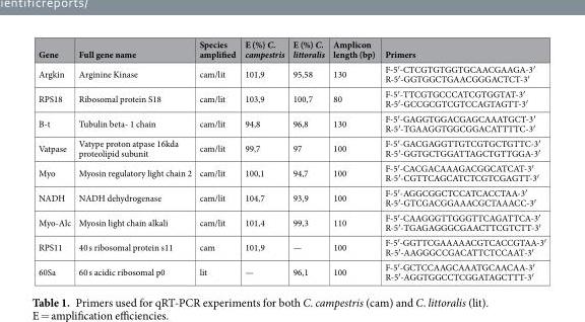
<table><thead><tr><td>Gene</td><td>Full gene name</td><td>Species amplified</td><td>E (%) C. campestris</td><td>E (%) C. littoralis</td><td>Amplicon length (bp)</td><td>Primers</td></tr></thead><tbody><tr><td>Argkin</td><td>Arginine Kinase</td><td>cam/lit</td><td>101,9</td><td>95,58</td><td>130</td><td>F-5′-CTCGTGTGGTGCAACGAAGA-3′ R-5′-GGTGGCTGAACGGGACTCT-3′</td></tr><tr><td>RPS18</td><td>Ribosomal protein S18</td><td>cam/lit</td><td>103,9</td><td>100,7</td><td>80</td><td>F-5′-TTCGTGCCCATCGTGGTAT-3′ R-5′-GCCGCGTCGTCCAGTAGTT-3′</td></tr><tr><td>B-t</td><td>Tubulin beta- 1 chain</td><td>cam/lit</td><td>94,8</td><td>96,8</td><td>130</td><td>F-5′-GAGGTGGACGAGCAAATGCT-3′ R-5′-TGAAGGTGGCGGACATTTTC-3′</td></tr><tr><td>Vatpase</td><td>Vatype proton atpase 16kda proteolipid subunit</td><td>cam/lit</td><td>99,7</td><td>97</td><td>100</td><td>F-5′-GACGAGGTTGTCGTGCTGTTC-3′ R-5′-GGTGCTGGATTAGCTGTTGGA-3′</td></tr><tr><td>Myo</td><td>Myosin regulatory light chain 2</td><td>cam/lit</td><td>100,1</td><td>94,7</td><td>100</td><td>F-5′-CACGACAAAGACGGCATCAT-3′ R-5′-CGTTCAGCATCTCGTCGAGTT-3′</td></tr><tr><td>NADH</td><td>NADH dehydrogenase</td><td>cam/lit</td><td>104,7</td><td>93,9</td><td>100</td><td>F-5′-AGGCGGCTCCATCACCTAA-3′ R-5′-GTCGACGGAAACGCTAAACC-3′</td></tr><tr><td>Myo-Alc</td><td>Myosin light chain alkali</td><td>cam/lit</td><td>101,4</td><td>99,3</td><td>110</td><td>F-5′-CAAGGGTTGGGTTCAGATTCA-3′ R-5′-TGAGAGGGCGAACTTCGTCTT-3′</td></tr><tr><td>RPS11</td><td>40 s ribosomal protein s11</td><td>cam</td><td>101,9</td><td>—</td><td>100</td><td>F-5′-GGTTCGAAAAACGTCACCGTAA-3′ R-5′-AAGGGCCGACATTCTCCAAT-3′</td></tr><tr><td>60Sa</td><td>60 s acidic ribosomal p0</td><td>lit</td><td>—</td><td>96,1</td><td>100</td><td>F-5′-GCTCCAAGCAAATGCAACAA-3′ R-5′-AGGTGGCCTCGGATAGCTTT-3′</td></tr></tbody></table>